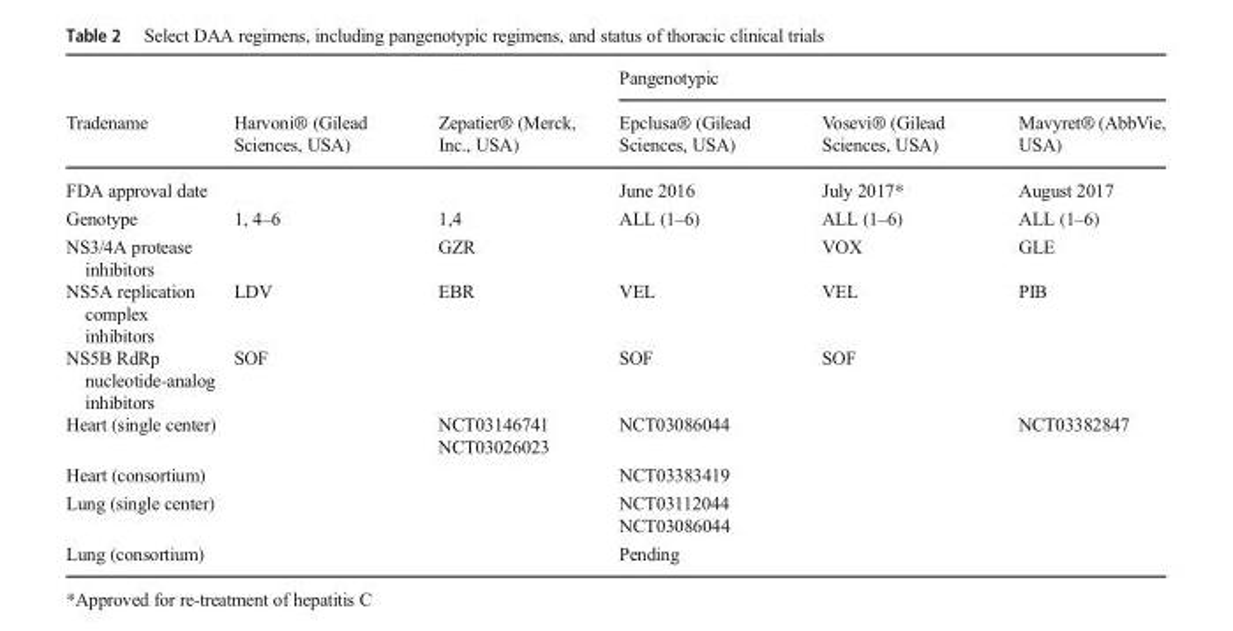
<table><thead><tr><td rowspan="2">Tradename</td><td rowspan="2">Harvoni® (Gilead Sciences, USA)</td><td rowspan="2">Zepatier® (Merck, Inc., USA)</td><td colspan="3">Pangenotypic</td></tr><tr><td>Epclusa® (Gilead Sciences, USA)</td><td>Vosevi® (Gilead Sciences, USA)</td><td>Mavyret® (AbbVie, USA)</td></tr></thead><tbody><tr><td>FDA approval date</td><td></td><td></td><td>June 2016</td><td>July 2017*</td><td>August 2017</td></tr><tr><td>Genotype</td><td>1, 4–6</td><td>1,4</td><td>ALL (1–6)</td><td>ALL (1–6)</td><td>ALL (1–6)</td></tr><tr><td>NS3/4A protease inhibitors</td><td></td><td>GZR</td><td></td><td>VOX</td><td>GLE</td></tr><tr><td>NS5A replication complex inhibitors</td><td>LDV</td><td>EBR</td><td>VEL</td><td>VEL</td><td>PIB</td></tr><tr><td>NS5B RdRp nucleotide-analog inhibitors</td><td>SOF</td><td></td><td>SOF</td><td>SOF</td><td></td></tr><tr><td rowspan="2">Heart (single center)</td><td rowspan="2"></td><td>NCT03146741</td><td rowspan="2">NCT03086044</td><td rowspan="2"></td><td rowspan="2">NCT03382847</td></tr><tr><td>NCT03026023</td></tr><tr><td>Heart (consortium)</td><td></td><td></td><td>NCT03383419</td><td></td><td></td></tr><tr><td rowspan="2">Lung (single center)</td><td rowspan="2"></td><td rowspan="2"></td><td>NCT03112044</td><td rowspan="2"></td><td rowspan="2"></td></tr><tr><td>NCT03086044</td></tr><tr><td>Lung (consortium)</td><td></td><td></td><td>Pending</td><td></td><td></td></tr></tbody></table>